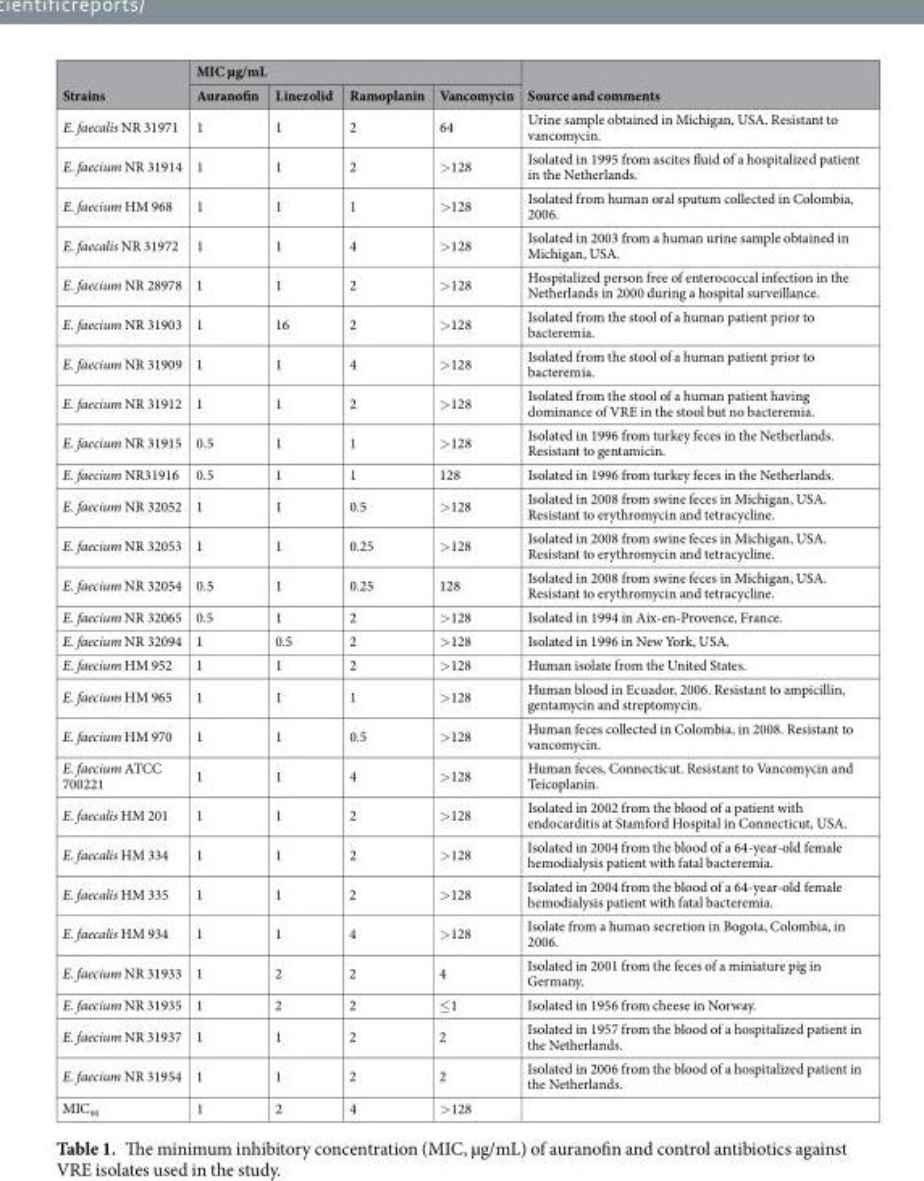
<table><thead><tr><td rowspan="2">Strains</td><td colspan="4">MIC µg/mL</td><td rowspan="2">Source and comments</td></tr><tr><td>Auranofin</td><td>Linezolid</td><td>Ramoplanin</td><td>Vancomycin</td></tr></thead><tbody><tr><td>E. faecalis NR 31971</td><td>1</td><td>1</td><td>2</td><td>64</td><td>Urine sample obtained in Michigan, USA. Resistant to vancomycin.</td></tr><tr><td>E. faecium NR 31914</td><td>1</td><td>1</td><td>2</td><td>&gt;128</td><td>Isolated in 1995 from ascites fluid of a hospitalized patient in the Netherlands.</td></tr><tr><td>E. faecium HM 968</td><td>1</td><td>1</td><td>1</td><td>&gt;128</td><td>Isolated from human oral sputum collected in Colombia, 2006.</td></tr><tr><td>E. faecalis NR 31972</td><td>1</td><td>1</td><td>4</td><td>&gt;128</td><td>Isolated in 2003 from a human urine sample obtained in Michigan, USA.</td></tr><tr><td>E. faecium NR 28978</td><td>1</td><td>1</td><td>2</td><td>&gt;128</td><td>Hospitalized person free of enterococcal infection in the Netherlands in 2000 during a hospital surveillance.</td></tr><tr><td>E. faecium NR 31903</td><td>1</td><td>16</td><td>2</td><td>&gt;128</td><td>Isolated from the stool of a human patient prior to bacteremia.</td></tr><tr><td>E. faecium NR 31909</td><td>1</td><td>1</td><td>4</td><td>&gt;128</td><td>Isolated from the stool of a human patient prior to bacteremia.</td></tr><tr><td>E. faecium NR 31912</td><td>1</td><td>1</td><td>2</td><td>&gt;128</td><td>Isolated from the stool of a human patient having dominance of VRE in the stool but no bacteremia.</td></tr><tr><td>E. faecium NR 31915</td><td>0.5</td><td>1</td><td>1</td><td>&gt;128</td><td>Isolated in 1996 from turkey feces in the Netherlands. Resistant to gentamicin.</td></tr><tr><td>E. faecium NR31916</td><td>0.5</td><td>1</td><td>1</td><td>128</td><td>Isolated in 1996 from turkey feces in the Netherlands.</td></tr><tr><td>E. faecium NR 32052</td><td>1</td><td>1</td><td>0.5</td><td>&gt;128</td><td>Isolated in 2008 from swine feces in Michigan, USA. Resistant to erythromycin and tetracycline.</td></tr><tr><td>E. faecium NR 32053</td><td>1</td><td>1</td><td>0.25</td><td>&gt;128</td><td>Isolated in 2008 from swine feces in Michigan, USA. Resistant to erythromycin and tetracycline.</td></tr><tr><td>E. faecium NR 32054</td><td>0.5</td><td>1</td><td>0.25</td><td>128</td><td>Isolated in 2008 from swine feces in Michigan, USA. Resistant to erythromycin and tetracycline.</td></tr><tr><td>E. faecium NR 32065</td><td>0.5</td><td>1</td><td>2</td><td>&gt;128</td><td>Isolated in 1994 in Aix-en-Provence, France.</td></tr><tr><td>E. faecium NR 32094</td><td>1</td><td>0.5</td><td>2</td><td>&gt;128</td><td>Isolated in 1996 in New York, USA.</td></tr><tr><td>E. faecium HM 952</td><td>1</td><td>1</td><td>2</td><td>&gt;128</td><td>Human isolate from the United States.</td></tr><tr><td>E. faecium HM 965</td><td>1</td><td>1</td><td>1</td><td>&gt;128</td><td>Human blood in Ecuador, 2006. Resistant to ampicillin, gentamycin and streptomycin.</td></tr><tr><td>E. faecium HM 970</td><td>1</td><td>1</td><td>0.5</td><td>&gt;128</td><td>Human feces collected in Colombia, in 2008. Resistant to vancomycin.</td></tr><tr><td>E. faecium ATCC 700221</td><td>1</td><td>1</td><td>4</td><td>&gt;128</td><td>Human feces, Connecticut. Resistant to Vancomycin and Teicoplanin.</td></tr><tr><td>E. faecalis HM 201</td><td>1</td><td>1</td><td>2</td><td>&gt;128</td><td>Isolated in 2002 from the blood of a patient with endocarditis at Stamford Hospital in Connecticut, USA.</td></tr><tr><td>E. faecalis HM 334</td><td>1</td><td>1</td><td>2</td><td>&gt;128</td><td>Isolated in 2004 from the blood of a 64-year-old female hemodialysis patient with fatal bacteremia.</td></tr><tr><td>E. faecalis HM 335</td><td>1</td><td>1</td><td>2</td><td>&gt;128</td><td>Isolated in 2004 from the blood of a 64-year-old female hemodialysis patient with fatal bacteremia.</td></tr><tr><td>E. faecalis HM 934</td><td>1</td><td>1</td><td>4</td><td>&gt;128</td><td>Isolate from a human secretion in Bogota, Colombia, in 2006.</td></tr><tr><td>E. faecium NR 31933</td><td>1</td><td>2</td><td>2</td><td>4</td><td>Isolated in 2001 from the feces of a miniature pig in Germany.</td></tr><tr><td>E. faecium NR 31935</td><td>1</td><td>2</td><td>2</td><td>≤1</td><td>Isolated in 1956 from cheese in Norway.</td></tr><tr><td>E. faecium NR 31937</td><td>1</td><td>1</td><td>2</td><td>2</td><td>Isolated in 1957 from the blood of a hospitalized patient in the Netherlands.</td></tr><tr><td>E. faecium NR 31954</td><td>1</td><td>1</td><td>2</td><td>2</td><td>Isolated in 2006 from the blood of a hospitalized patient in the Netherlands.</td></tr><tr><td>MIC<sub>90</sub></td><td>1</td><td>2</td><td>4</td><td>&gt;128</td><td></td></tr></tbody></table>